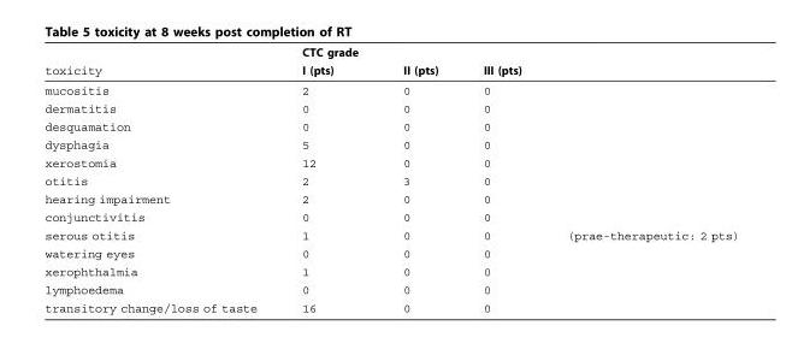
<table><thead><tr><td rowspan="2">toxicity</td><td rowspan="2">CTC grade I (pts)</td><td rowspan="2">II (pts)</td><td rowspan="2">III (pts)</td><td rowspan="2"></td></tr><tr></tr></thead><tbody><tr><td>mucositis</td><td>2</td><td>0</td><td>0</td><td></td></tr><tr><td>dermatitis</td><td>0</td><td>0</td><td>0</td><td></td></tr><tr><td>desquamation</td><td>0</td><td>0</td><td>0</td><td></td></tr><tr><td>dysphagia</td><td>5</td><td>0</td><td>0</td><td></td></tr><tr><td>xerostomia</td><td>12</td><td>0</td><td>0</td><td></td></tr><tr><td>otitis</td><td>2</td><td>3</td><td>0</td><td></td></tr><tr><td>hearing impairment</td><td>2</td><td>0</td><td>0</td><td></td></tr><tr><td>conjunctivitis</td><td>0</td><td>0</td><td>0</td><td></td></tr><tr><td>serous otitis</td><td>1</td><td>0</td><td>0</td><td>(prae-therapeutic: 2 pts)</td></tr><tr><td>watering eyes</td><td>0</td><td>0</td><td>0</td><td></td></tr><tr><td>xerophthalmia</td><td>1</td><td>0</td><td>0</td><td></td></tr><tr><td>lymphoedema</td><td>0</td><td>0</td><td>0</td><td></td></tr><tr><td>transitory change/loss of taste</td><td>16</td><td>0</td><td>0</td><td></td></tr></tbody></table>